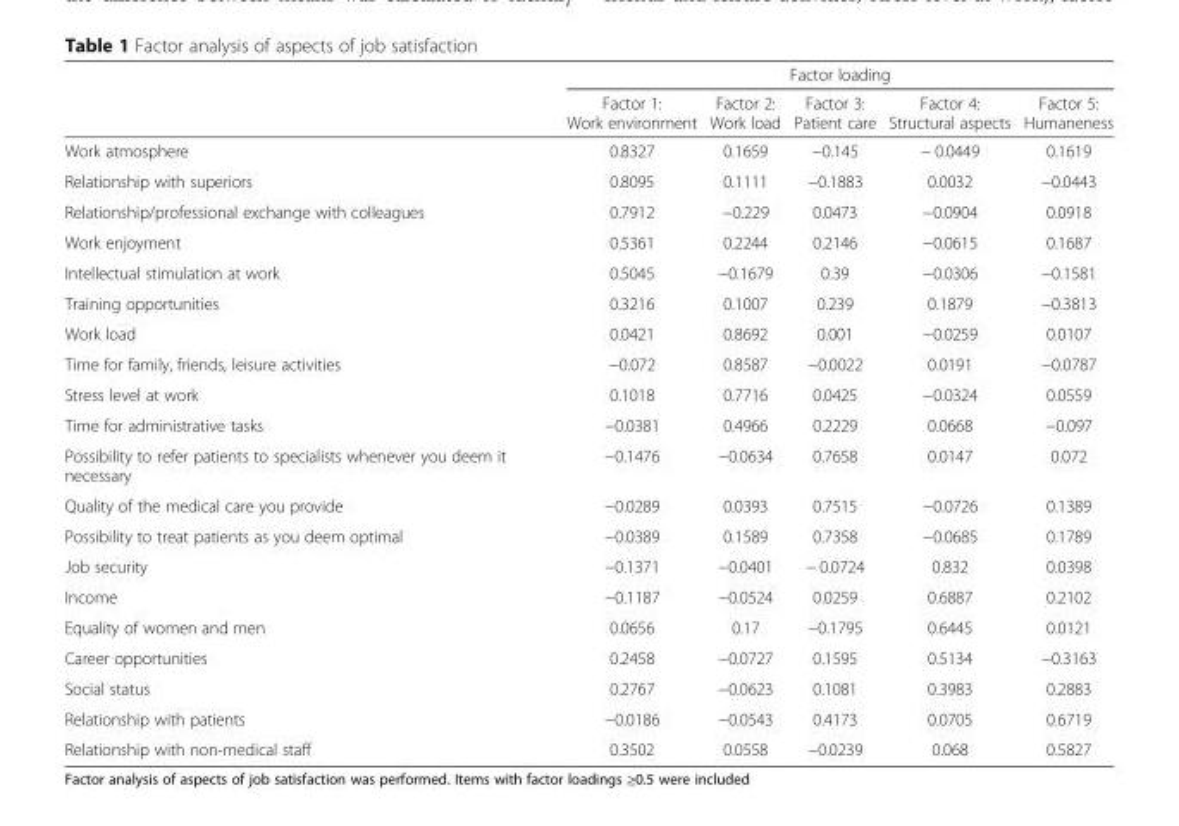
<table><thead><tr><td rowspan="2"></td><td colspan="5">Factor loading</td></tr><tr><td>Factor 1: Work environment</td><td>Factor 2: Work load</td><td>Factor 3: Patient care</td><td>Factor 4: Structural aspects</td><td>Factor 5: Humaneness</td></tr></thead><tbody><tr><td>Work atmosphere</td><td>0.8327</td><td>0.1659</td><td>−0.145</td><td>− 0.0449</td><td>0.1619</td></tr><tr><td>Relationship with superiors</td><td>0.8095</td><td>0.1111</td><td>−0.1883</td><td>0.0032</td><td>−0.0443</td></tr><tr><td>Relationship/professional exchange with colleagues</td><td>0.7912</td><td>−0.229</td><td>0.0473</td><td>−0.0904</td><td>0.0918</td></tr><tr><td>Work enjoyment</td><td>0.5361</td><td>0.2244</td><td>0.2146</td><td>−0.0615</td><td>0.1687</td></tr><tr><td>Intellectual stimulation at work</td><td>0.5045</td><td>−0.1679</td><td>0.39</td><td>−0.0306</td><td>−0.1581</td></tr><tr><td>Training opportunities</td><td>0.3216</td><td>0.1007</td><td>0.239</td><td>0.1879</td><td>−0.3813</td></tr><tr><td>Work load</td><td>0.0421</td><td>0.8692</td><td>0.001</td><td>−0.0259</td><td>0.0107</td></tr><tr><td>Time for family, friends, leisure activities</td><td>−0.072</td><td>0.8587</td><td>−0.0022</td><td>0.0191</td><td>−0.0787</td></tr><tr><td>Stress level at work</td><td>0.1018</td><td>0.7716</td><td>0.0425</td><td>−0.0324</td><td>0.0559</td></tr><tr><td>Time for administrative tasks</td><td>−0.0381</td><td>0.4966</td><td>0.2229</td><td>0.0668</td><td>−0.097</td></tr><tr><td>Possibility to refer patients to specialists whenever you deem it necessary</td><td>−0.1476</td><td>−0.0634</td><td>0.7658</td><td>0.0147</td><td>0.072</td></tr><tr><td>Quality of the medical care you provide</td><td>−0.0289</td><td>0.0393</td><td>0.7515</td><td>−0.0726</td><td>0.1389</td></tr><tr><td>Possibility to treat patients as you deem optimal</td><td>−0.0389</td><td>0.1589</td><td>0.7358</td><td>−0.0685</td><td>0.1789</td></tr><tr><td>Job security</td><td>−0.1371</td><td>−0.0401</td><td>− 0.0724</td><td>0.832</td><td>0.0398</td></tr><tr><td>Income</td><td>−0.1187</td><td>−0.0524</td><td>0.0259</td><td>0.6887</td><td>0.2102</td></tr><tr><td>Equality of women and men</td><td>0.0656</td><td>0.17</td><td>−0.1795</td><td>0.6445</td><td>0.0121</td></tr><tr><td>Career opportunities</td><td>0.2458</td><td>−0.0727</td><td>0.1595</td><td>0.5134</td><td>−0.3163</td></tr><tr><td>Social status</td><td>0.2767</td><td>−0.0623</td><td>0.1081</td><td>0.3983</td><td>0.2883</td></tr><tr><td>Relationship with patients</td><td>−0.0186</td><td>−0.0543</td><td>0.4173</td><td>0.0705</td><td>0.6719</td></tr><tr><td>Relationship with non-medical staff</td><td>0.3502</td><td>0.0558</td><td>−0.0239</td><td>0.068</td><td>0.5827</td></tr></tbody></table>